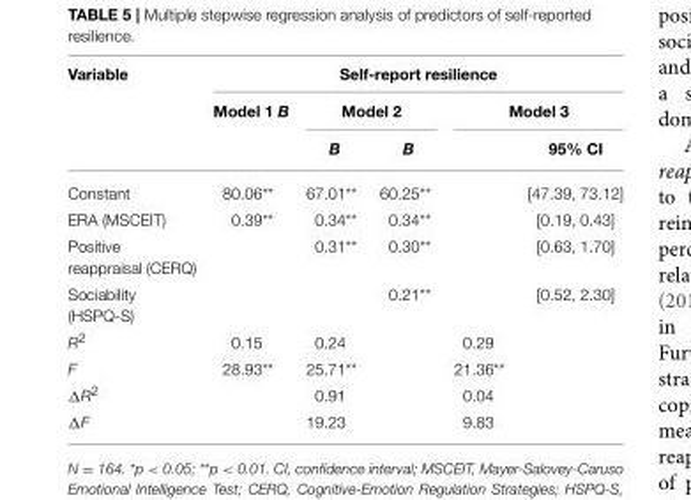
<table><thead><tr><td rowspan="3">Variable</td><td colspan="5">Self-report resilience</td></tr><tr><td rowspan="2">Model 1 B</td><td colspan="2">Model 2</td><td colspan="2">Model 3</td></tr><tr><td>B</td><td>B</td><td></td><td>95% CI</td></tr></thead><tbody><tr><td>Constant</td><td>80.06**</td><td>67.01**</td><td>60.25**</td><td></td><td>[47.39, 73.12]</td></tr><tr><td>ERA (MSCEIT)</td><td>0.39**</td><td>0.34**</td><td>0.34**</td><td></td><td>[0.19, 0.43]</td></tr><tr><td>Positive reappraisal (CERQ)</td><td></td><td>0.31**</td><td>0.30**</td><td></td><td>[0.63, 1.70]</td></tr><tr><td>Sociability (HSPQ-S)</td><td></td><td></td><td>0.21**</td><td></td><td>[0.52, 2.30]</td></tr><tr><td>R<sup>2</sup></td><td>0.15</td><td>0.24</td><td></td><td>0.29</td><td></td></tr><tr><td>F</td><td>28.93**</td><td>25.71**</td><td></td><td>21.36**</td><td></td></tr><tr><td>ΔR<sup>2</sup></td><td></td><td>0.91</td><td></td><td>0.04</td><td></td></tr><tr><td>ΔF</td><td></td><td>19.23</td><td></td><td>9.83</td><td></td></tr></tbody></table>